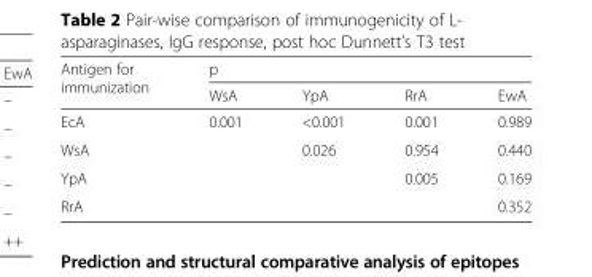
<table><thead><tr><td rowspan="2">Antigen for immunization</td><td colspan="4">p</td></tr><tr><td>WsA</td><td>YpA</td><td>RrA</td><td>EwA</td></tr></thead><tbody><tr><td>EcA</td><td>0.001</td><td>&lt;0.001</td><td>0.001</td><td>0.989</td></tr><tr><td>WsA</td><td></td><td>0.026</td><td>0.954</td><td>0.440</td></tr><tr><td>YpA</td><td></td><td></td><td>0.005</td><td>0.169</td></tr><tr><td>RrA</td><td></td><td></td><td></td><td>0.352</td></tr></tbody></table>